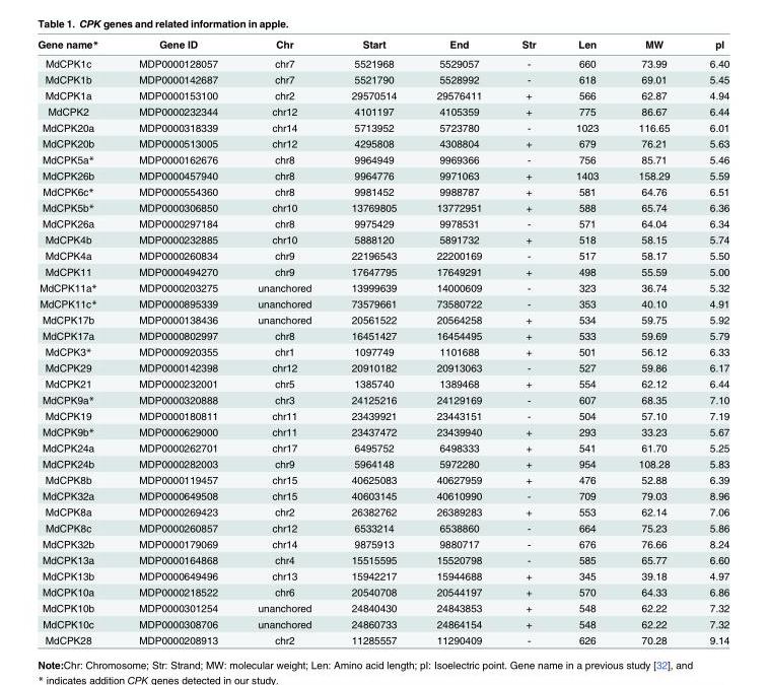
<table><thead><tr><td>Gene name*</td><td>Gene ID</td><td>Chr</td><td>Start</td><td>End</td><td>Str</td><td>Len</td><td>MW</td><td>pI</td></tr></thead><tbody><tr><td>MdCPK1c</td><td>MDP0000128057</td><td>chr7</td><td>5521968</td><td>5529057</td><td>-</td><td>660</td><td>73.99</td><td>6.40</td></tr><tr><td>MdCPK1b</td><td>MDP0000142687</td><td>chr7</td><td>5521790</td><td>5528992</td><td>-</td><td>618</td><td>69.01</td><td>5.45</td></tr><tr><td>MdCPK1a</td><td>MDP0000153100</td><td>chr2</td><td>29570514</td><td>29576411</td><td>+</td><td>566</td><td>62.87</td><td>4.94</td></tr><tr><td>MdCPK2</td><td>MDP0000232344</td><td>chr12</td><td>4101197</td><td>4105359</td><td>+</td><td>775</td><td>86.67</td><td>6.44</td></tr><tr><td>MdCPK20a</td><td>MDP0000318339</td><td>chr14</td><td>5713952</td><td>5723780</td><td>-</td><td>1023</td><td>116.65</td><td>6.01</td></tr><tr><td>MdCPK20b</td><td>MDP0000513005</td><td>chr12</td><td>4295808</td><td>4308804</td><td>+</td><td>679</td><td>76.21</td><td>5.63</td></tr><tr><td>MdCPK5a*</td><td>MDP0000162676</td><td>chr8</td><td>9964949</td><td>9969366</td><td>-</td><td>756</td><td>85.71</td><td>5.46</td></tr><tr><td>MdCPK26b</td><td>MDP0000457940</td><td>chr8</td><td>9964776</td><td>9971063</td><td>+</td><td>1403</td><td>158.29</td><td>5.59</td></tr><tr><td>MdCPK6c*</td><td>MDP0000554360</td><td>chr8</td><td>9981452</td><td>9988787</td><td>+</td><td>581</td><td>64.76</td><td>6.51</td></tr><tr><td>MdCPK5b*</td><td>MDP0000306850</td><td>chr10</td><td>13769805</td><td>13772951</td><td>+</td><td>588</td><td>65.74</td><td>6.36</td></tr><tr><td>MdCPK26a</td><td>MDP0000297184</td><td>chr8</td><td>9975429</td><td>9978531</td><td>-</td><td>571</td><td>64.04</td><td>6.34</td></tr><tr><td>MdCPK4b</td><td>MDP0000232885</td><td>chr10</td><td>5888120</td><td>5891732</td><td>+</td><td>518</td><td>58.15</td><td>5.74</td></tr><tr><td>MdCPK4a</td><td>MDP0000260834</td><td>chr9</td><td>22196543</td><td>22200169</td><td>-</td><td>517</td><td>58.17</td><td>5.50</td></tr><tr><td>MdCPK11</td><td>MDP0000494270</td><td>chr9</td><td>17647795</td><td>17649291</td><td>+</td><td>498</td><td>55.59</td><td>5.00</td></tr><tr><td>MdCPK11a*</td><td>MDP0000203275</td><td>unanchored</td><td>13999639</td><td>14000609</td><td>-</td><td>323</td><td>36.74</td><td>5.32</td></tr><tr><td>MdCPK11c*</td><td>MDP0000895339</td><td>unanchored</td><td>73579661</td><td>73580722</td><td>-</td><td>353</td><td>40.10</td><td>4.91</td></tr><tr><td>MdCPK17b</td><td>MDP0000138436</td><td>unanchored</td><td>20561522</td><td>20564258</td><td>+</td><td>534</td><td>59.75</td><td>5.92</td></tr><tr><td>MdCPK17a</td><td>MDP0000802997</td><td>chr8</td><td>16451427</td><td>16454495</td><td>+</td><td>533</td><td>59.69</td><td>5.79</td></tr><tr><td>MdCPK3*</td><td>MDP0000920355</td><td>chr1</td><td>1097749</td><td>1101688</td><td>+</td><td>501</td><td>56.12</td><td>6.33</td></tr><tr><td>MdCPK29</td><td>MDP0000142398</td><td>chr12</td><td>20910182</td><td>20913063</td><td>-</td><td>527</td><td>59.86</td><td>6.17</td></tr><tr><td>MdCPK21</td><td>MDP0000232001</td><td>chr5</td><td>1385740</td><td>1389468</td><td>+</td><td>554</td><td>62.12</td><td>6.44</td></tr><tr><td>MdCPK9a*</td><td>MDP0000320888</td><td>chr3</td><td>24125216</td><td>24129169</td><td>-</td><td>607</td><td>68.35</td><td>7.10</td></tr><tr><td>MdCPK19</td><td>MDP0000180811</td><td>chr11</td><td>23439921</td><td>23443151</td><td>-</td><td>504</td><td>57.10</td><td>7.19</td></tr><tr><td>MdCPK9b*</td><td>MDP0000629000</td><td>chr11</td><td>23437472</td><td>23439940</td><td>+</td><td>293</td><td>33.23</td><td>5.67</td></tr><tr><td>MdCPK24a</td><td>MDP0000262701</td><td>chr17</td><td>6495752</td><td>6498333</td><td>+</td><td>541</td><td>61.70</td><td>5.25</td></tr><tr><td>MdCPK24b</td><td>MDP0000282003</td><td>chr9</td><td>5964148</td><td>5972280</td><td>+</td><td>954</td><td>108.28</td><td>5.83</td></tr><tr><td>MdCPK8b</td><td>MDP0000119457</td><td>chr15</td><td>40625083</td><td>40627959</td><td>+</td><td>476</td><td>52.88</td><td>6.39</td></tr><tr><td>MdCPK32a</td><td>MDP0000649508</td><td>chr15</td><td>40603145</td><td>40610990</td><td>-</td><td>709</td><td>79.03</td><td>8.96</td></tr><tr><td>MdCPK8a</td><td>MDP0000269423</td><td>chr2</td><td>26382762</td><td>26389283</td><td>+</td><td>553</td><td>62.14</td><td>7.06</td></tr><tr><td>MdCPK8c</td><td>MDP0000260857</td><td>chr12</td><td>6533214</td><td>6538860</td><td>-</td><td>664</td><td>75.23</td><td>5.86</td></tr><tr><td>MdCPK32b</td><td>MDP0000179069</td><td>chr14</td><td>9875913</td><td>9880717</td><td>-</td><td>676</td><td>76.66</td><td>8.24</td></tr><tr><td>MdCPK13a</td><td>MDP0000164868</td><td>chr4</td><td>15515595</td><td>15520798</td><td>-</td><td>585</td><td>65.77</td><td>6.60</td></tr><tr><td>MdCPK13b</td><td>MDP0000649496</td><td>chr13</td><td>15942217</td><td>15944688</td><td>+</td><td>345</td><td>39.18</td><td>4.97</td></tr><tr><td>MdCPK10a</td><td>MDP0000218522</td><td>chr6</td><td>20540708</td><td>20544197</td><td>+</td><td>570</td><td>64.33</td><td>6.86</td></tr><tr><td>MdCPK10b</td><td>MDP0000301254</td><td>unanchored</td><td>24840430</td><td>24843853</td><td>+</td><td>548</td><td>62.22</td><td>7.32</td></tr><tr><td>MdCPK10c</td><td>MDP0000308706</td><td>unanchored</td><td>24860733</td><td>24864154</td><td>+</td><td>548</td><td>62.22</td><td>7.32</td></tr><tr><td>MdCPK28</td><td>MDP0000208913</td><td>chr2</td><td>11285557</td><td>11290409</td><td>-</td><td>626</td><td>70.28</td><td>9.14</td></tr></tbody></table>